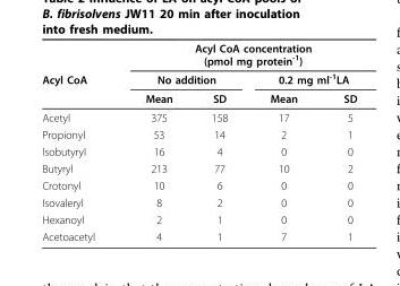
<table><thead><tr><td rowspan="3">Acyl CoA</td><td colspan="4">Acyl CoA concentration (pmol mg protein<sup>-1</sup>)</td></tr><tr><td colspan="2">No addition</td><td colspan="2">0.2 mg ml<sup>-1</sup>LA</td></tr><tr><td>Mean</td><td>SD</td><td>Mean</td><td>SD</td></tr></thead><tbody><tr><td>Acetyl</td><td>375</td><td>158</td><td>17</td><td>5</td></tr><tr><td>Propionyl</td><td>53</td><td>14</td><td>2</td><td>1</td></tr><tr><td>Isobutyryl</td><td>16</td><td>4</td><td>0</td><td>0</td></tr><tr><td>Butyryl</td><td>213</td><td>77</td><td>10</td><td>2</td></tr><tr><td>Crotonyl</td><td>10</td><td>6</td><td>0</td><td>0</td></tr><tr><td>Isovaleryl</td><td>8</td><td>2</td><td>0</td><td>0</td></tr><tr><td>Hexanoyl</td><td>2</td><td>1</td><td>0</td><td>0</td></tr><tr><td>Acetoacetyl</td><td>4</td><td>1</td><td>7</td><td>1</td></tr></tbody></table>